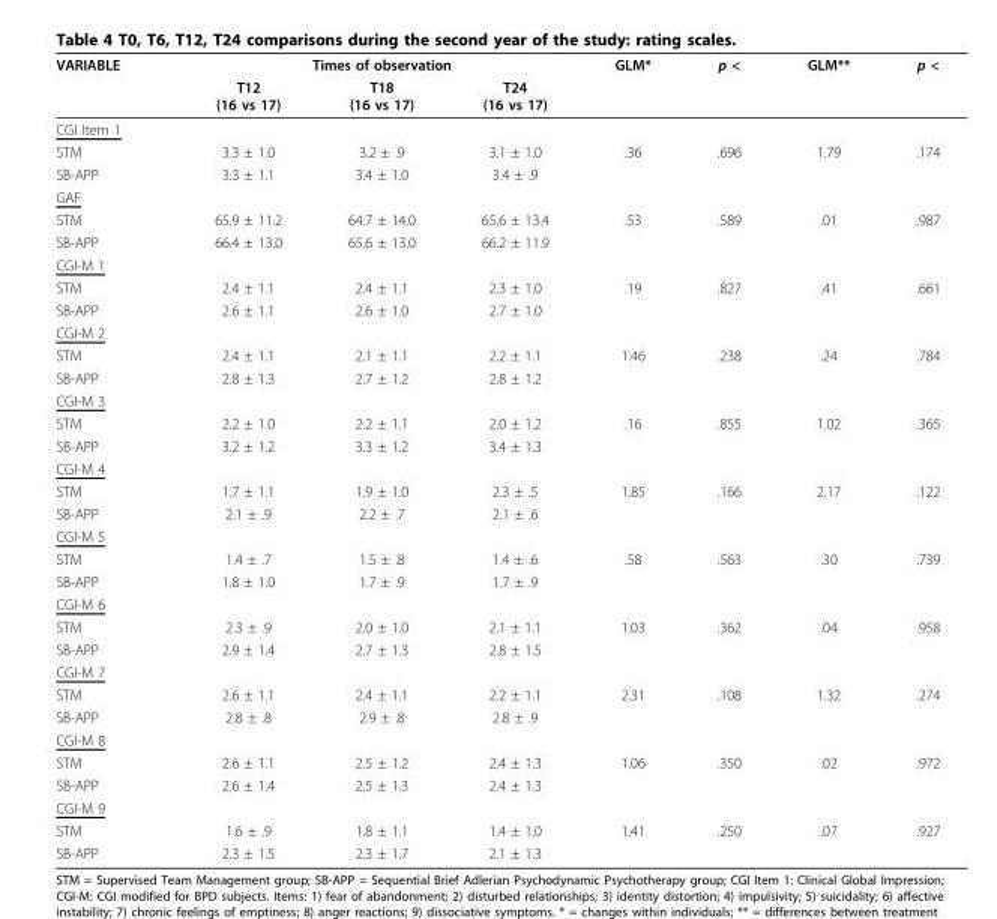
<table><thead><tr><td rowspan="2">VARIABLE</td><td colspan="3">Times of observation</td><td rowspan="2">GLM*</td><td rowspan="2">p &lt;</td><td rowspan="2">GLM**</td><td rowspan="2">p &lt;</td></tr><tr><td>T12 (16 vs 17)</td><td>T18 (16 vs 17)</td><td>T24 (16 vs 17)</td></tr></thead><tbody><tr><td colspan="8">CGI Item 1</td></tr><tr><td>STM</td><td>3.3 ± 1.0</td><td>3.2 ± .9</td><td>3.1 ± 1.0</td><td>.36</td><td>.696</td><td>1.79</td><td>.174</td></tr><tr><td>SB-APP</td><td>3.3 ± 1.1</td><td>3.4 ± 1.0</td><td>3.4 ± .9</td><td></td><td></td><td></td><td></td></tr><tr><td colspan="8">GAF</td></tr><tr><td>STM</td><td>65.9 ± 11.2</td><td>64.7 ± 14.0</td><td>65.6 ± 13.4</td><td>.53</td><td>.589</td><td>.01</td><td>.987</td></tr><tr><td>SB-APP</td><td>66.4 ± 13.0</td><td>65.6 ± 13.0</td><td>66.2 ± 11.9</td><td></td><td></td><td></td><td></td></tr><tr><td colspan="8">CGI-M 1</td></tr><tr><td>STM</td><td>2.4 ± 1.1</td><td>2.4 ± 1.1</td><td>2.3 ± 1.0</td><td>.19</td><td>.827</td><td>.41</td><td>.661</td></tr><tr><td>SB-APP</td><td>2.6 ± 1.1</td><td>2.6 ± 1.0</td><td>2.7 ± 1.0</td><td></td><td></td><td></td><td></td></tr><tr><td colspan="8">CGI-M 2</td></tr><tr><td>STM</td><td>2.4 ± 1.1</td><td>2.1 ± 1.1</td><td>2.2 ± 1.1</td><td>1.46</td><td>.238</td><td>.24</td><td>.784</td></tr><tr><td>SB-APP</td><td>2.8 ± 1.3</td><td>2.7 ± 1.2</td><td>2.8 ± 1.2</td><td></td><td></td><td></td><td></td></tr><tr><td colspan="8">CGI-M 3</td></tr><tr><td>STM</td><td>2.2 ± 1.0</td><td>2.2 ± 1.1</td><td>2.0 ± 1.2</td><td>.16</td><td>.855</td><td>1.02</td><td>.365</td></tr><tr><td>SB-APP</td><td>3.2 ± 1.2</td><td>3.3 ± 1.2</td><td>3.4 ± 1.3</td><td></td><td></td><td></td><td></td></tr><tr><td colspan="8">CGI-M 4</td></tr><tr><td>STM</td><td>1.7 ± 1.1</td><td>1.9 ± 1.0</td><td>2.3 ± .5</td><td>1.85</td><td>.166</td><td>2.17</td><td>.122</td></tr><tr><td>SB-APP</td><td>2.1 ± .9</td><td>2.2 ± .7</td><td>2.1 ± .6</td><td></td><td></td><td></td><td></td></tr><tr><td colspan="8">CGI-M 5</td></tr><tr><td>STM</td><td>1.4 ± .7</td><td>1.5 ± .8</td><td>1.4 ± .6</td><td>.58</td><td>.563</td><td>.30</td><td>.739</td></tr><tr><td>SB-APP</td><td>1.8 ± 1.0</td><td>1.7 ± .9</td><td>1.7 ± .9</td><td></td><td></td><td></td><td></td></tr><tr><td colspan="8">CGI-M 6</td></tr><tr><td>STM</td><td>2.3 ± .9</td><td>2.0 ± 1.0</td><td>2.1 ± 1.1</td><td>1.03</td><td>.362</td><td>.04</td><td>.958</td></tr><tr><td>SB-APP</td><td>2.9 ± 1.4</td><td>2.7 ± 1.3</td><td>2.8 ± 1.5</td><td></td><td></td><td></td><td></td></tr><tr><td colspan="8">CGI-M 7</td></tr><tr><td>STM</td><td>2.6 ± 1.1</td><td>2.4 ± 1.1</td><td>2.2 ± 1.1</td><td>2.31</td><td>.108</td><td>1.32</td><td>.274</td></tr><tr><td>SB-APP</td><td>2.8 ± .8</td><td>2.9 ± .8</td><td>2.8 ± .9</td><td></td><td></td><td></td><td></td></tr><tr><td colspan="8">CGI-M 8</td></tr><tr><td>STM</td><td>2.6 ± 1.1</td><td>2.5 ± 1.2</td><td>2.4 ± 1.3</td><td>1.06</td><td>.350</td><td>.02</td><td>.972</td></tr><tr><td>SB-APP</td><td>2.6 ± 1.4</td><td>2.5 ± 1.3</td><td>2.4 ± 1.3</td><td></td><td></td><td></td><td></td></tr><tr><td colspan="8">CGI-M 9</td></tr><tr><td>STM</td><td>1.6 ± .9</td><td>1.8 ± 1.1</td><td>1.4 ± 1.0</td><td>1.41</td><td>.250</td><td>.07</td><td>.927</td></tr><tr><td>SB-APP</td><td>2.3 ± 1.5</td><td>2.3 ± 1.7</td><td>2.1 ± 1.3</td><td></td><td></td><td></td><td></td></tr></tbody></table>